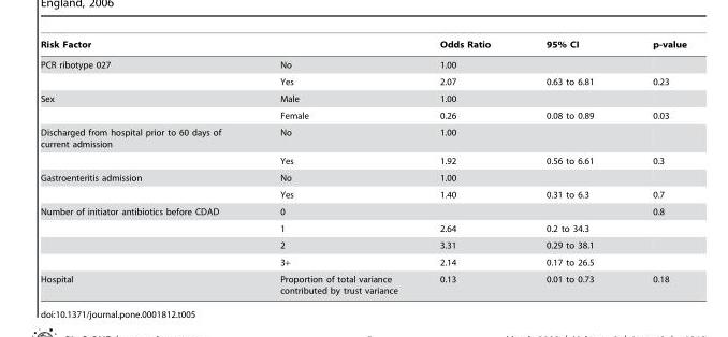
<table><thead><tr><td>Risk Factor</td><td></td><td>Odds Ratio</td><td>95% CI</td><td>p-value</td></tr></thead><tbody><tr><td rowspan="2">PCR ribotype 027</td><td>No</td><td>1.00</td><td></td><td></td></tr><tr><td>Yes</td><td>2.07</td><td>0.63 to 6.81</td><td>0.23</td></tr><tr><td rowspan="2">Sex</td><td>Male</td><td>1.00</td><td></td><td></td></tr><tr><td>Female</td><td>0.26</td><td>0.08 to 0.89</td><td>0.03</td></tr><tr><td rowspan="2">Discharged from hospital prior to 60 days of current admission</td><td>No</td><td>1.00</td><td></td><td></td></tr><tr><td>Yes</td><td>1.92</td><td>0.56 to 6.61</td><td>0.3</td></tr><tr><td rowspan="2">Gastroenteritis admission</td><td>No</td><td>1.00</td><td></td><td></td></tr><tr><td>Yes</td><td>1.40</td><td>0.31 to 6.3</td><td>0.7</td></tr><tr><td rowspan="4">Number of initiator antibiotics before CDAD</td><td>0</td><td></td><td></td><td>0.8</td></tr><tr><td>1</td><td>2.64</td><td>0.2 to 34.3</td><td></td></tr><tr><td>2</td><td>3.31</td><td>0.29 to 38.1</td><td></td></tr><tr><td>3+</td><td>2.14</td><td>0.17 to 26.5</td><td></td></tr><tr><td>Hospital</td><td>Proportion of total variance contributed by trust variance</td><td>0.13</td><td>0.01 to 0.73</td><td>0.18</td></tr></tbody></table>